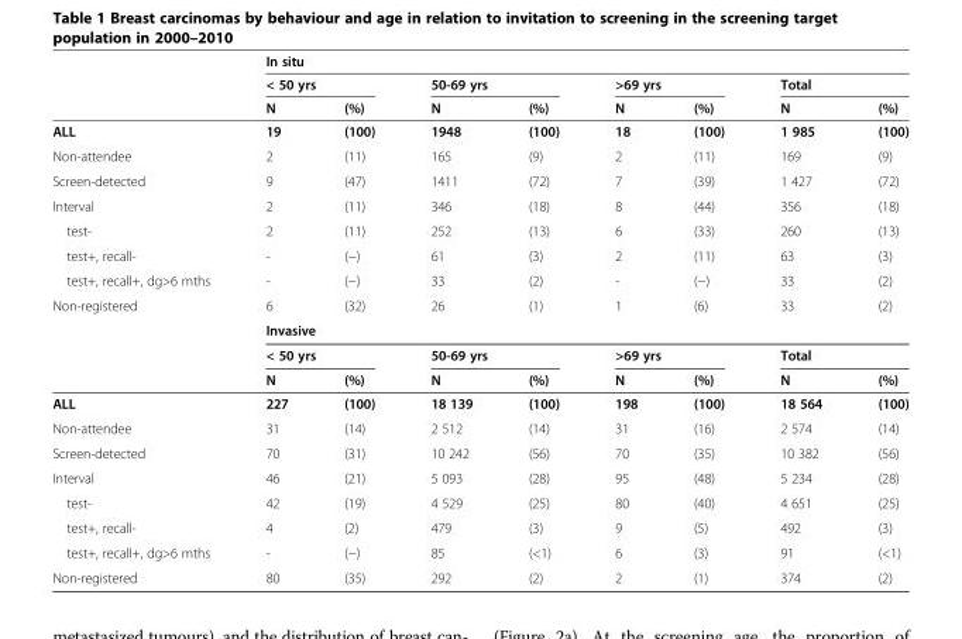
<table><thead><tr><td rowspan="3"></td><td colspan="8">In situ</td></tr><tr><td colspan="2">&lt; 50 yrs</td><td colspan="2">50-69 yrs</td><td colspan="2">&gt;69 yrs</td><td colspan="2">Total</td></tr><tr><td>N</td><td>(%)</td><td>N</td><td>(%)</td><td>N</td><td>(%)</td><td>N</td><td>(%)</td></tr></thead><tbody><tr><td>ALL</td><td>19</td><td>(100)</td><td>1948</td><td>(100)</td><td>18</td><td>(100)</td><td>1 985</td><td>(100)</td></tr><tr><td>Non-attendee</td><td>2</td><td>(11)</td><td>165</td><td>(9)</td><td>2</td><td>(11)</td><td>169</td><td>(9)</td></tr><tr><td>Screen-detected</td><td>9</td><td>(47)</td><td>1411</td><td>(72)</td><td>7</td><td>(39)</td><td>1 427</td><td>(72)</td></tr><tr><td>Interval</td><td>2</td><td>(11)</td><td>346</td><td>(18)</td><td>8</td><td>(44)</td><td>356</td><td>(18)</td></tr><tr><td>test-</td><td>2</td><td>(11)</td><td>252</td><td>(13)</td><td>6</td><td>(33)</td><td>260</td><td>(13)</td></tr><tr><td>test+, recall-</td><td>-</td><td>(−)</td><td>61</td><td>(3)</td><td>2</td><td>(11)</td><td>63</td><td>(3)</td></tr><tr><td>test+, recall+, dg&gt;6 mths</td><td>-</td><td>(−)</td><td>33</td><td>(2)</td><td>-</td><td>(−)</td><td>33</td><td>(2)</td></tr><tr><td rowspan="4">Non-registered</td><td>6</td><td>(32)</td><td>26</td><td>(1)</td><td>1</td><td>(6)</td><td>33</td><td>(2)</td></tr><tr><td colspan="8">Invasive</td></tr><tr><td colspan="2">&lt; 50 yrs</td><td colspan="2">50-69 yrs</td><td colspan="2">&gt;69 yrs</td><td colspan="2">Total</td></tr><tr><td>N</td><td>(%)</td><td>N</td><td>(%)</td><td>N</td><td>(%)</td><td>N</td><td>(%)</td></tr><tr><td>ALL</td><td>227</td><td>(100)</td><td>18 139</td><td>(100)</td><td>198</td><td>(100)</td><td>18 564</td><td>(100)</td></tr><tr><td>Non-attendee</td><td>31</td><td>(14)</td><td>2 512</td><td>(14)</td><td>31</td><td>(16)</td><td>2 574</td><td>(14)</td></tr><tr><td>Screen-detected</td><td>70</td><td>(31)</td><td>10 242</td><td>(56)</td><td>70</td><td>(35)</td><td>10 382</td><td>(56)</td></tr><tr><td>Interval</td><td>46</td><td>(21)</td><td>5 093</td><td>(28)</td><td>95</td><td>(48)</td><td>5 234</td><td>(28)</td></tr><tr><td>test-</td><td>42</td><td>(19)</td><td>4 529</td><td>(25)</td><td>80</td><td>(40)</td><td>4 651</td><td>(25)</td></tr><tr><td>test+, recall-</td><td>4</td><td>(2)</td><td>479</td><td>(3)</td><td>9</td><td>(5)</td><td>492</td><td>(3)</td></tr><tr><td>test+, recall+, dg&gt;6 mths</td><td>-</td><td>(−)</td><td>85</td><td>(&lt;1)</td><td>6</td><td>(3)</td><td>91</td><td>(&lt;1)</td></tr><tr><td>Non-registered</td><td>80</td><td>(35)</td><td>292</td><td>(2)</td><td>2</td><td>(1)</td><td>374</td><td>(2)</td></tr></tbody></table>